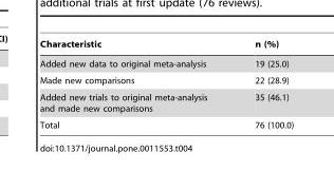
<table><thead><tr><td>Characteristic</td><td>n (%)</td></tr></thead><tbody><tr><td>Added new data to original meta-analysis</td><td>19 (25.0)</td></tr><tr><td>Made new comparisons</td><td>22 (28.9)</td></tr><tr><td>Added new trials to original meta-analysis and made new comparisons</td><td>35 (46.1)</td></tr><tr><td>Total</td><td>76 (100.0)</td></tr></tbody></table>